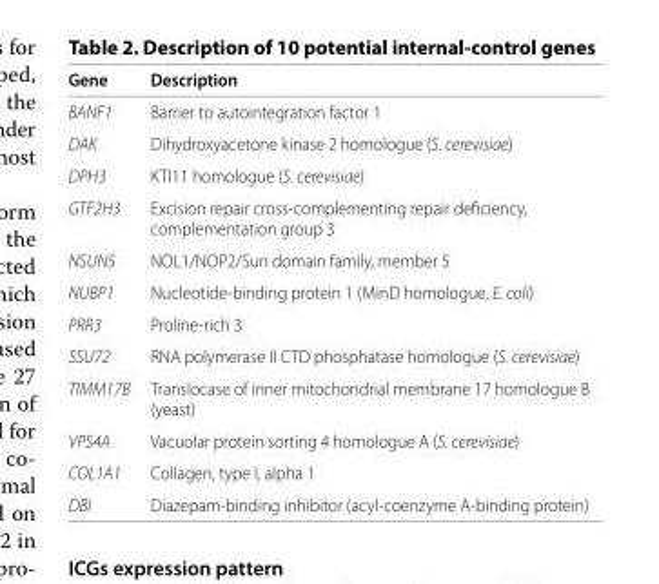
<table><thead><tr><td>Gene</td><td>Description</td></tr></thead><tbody><tr><td>BANF1</td><td>Barrier to autointegration factor 1</td></tr><tr><td>DAK</td><td>Dihydroxyacetone kinase 2 homologue (S. cerevisiae)</td></tr><tr><td>DPH3</td><td>KTI11 homologue (S. cerevisiae)</td></tr><tr><td>GTF2H3</td><td>Excision repair cross-complementing repair deficiency, complementation group 3</td></tr><tr><td>NSUN5</td><td>NOL1/NOP2/Sun domain family, member 5</td></tr><tr><td>NUBP1</td><td>Nucleotide-binding protein 1 (MinD homologue, E. coli)</td></tr><tr><td>PRR3</td><td>Proline-rich 3</td></tr><tr><td>SSU72</td><td>RNA polymerase II CTD phosphatase homologue (S. cerevisiae)</td></tr><tr><td>TIMM17B</td><td>Translocase of inner mitochondrial membrane 17 homologue B (yeast)</td></tr><tr><td>VPS4A</td><td>Vacuolar protein sorting 4 homologue A (S. cerevisiae)</td></tr><tr><td>COL1A1</td><td>Collagen, type I, alpha 1</td></tr><tr><td>DBI</td><td>Diazepam-binding inhibitor (acyl-coenzyme A-binding protein)</td></tr></tbody></table>